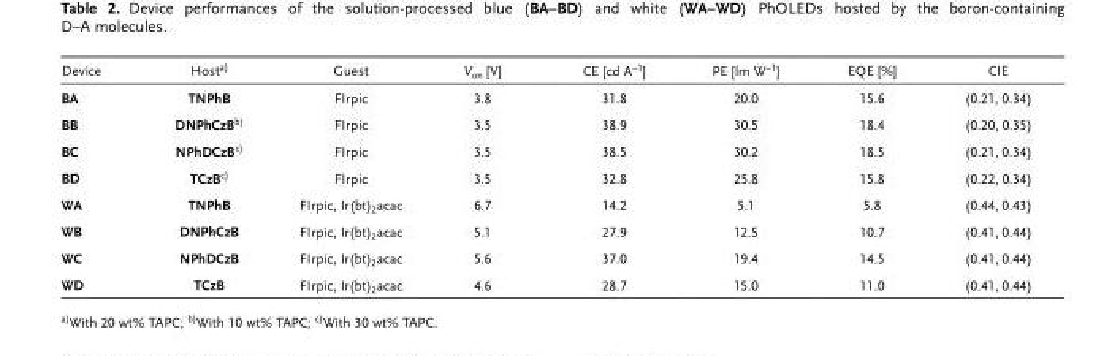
<table><thead><tr><td>Device</td><td>Hosta)</td><td>Guest</td><td>V<sub>on</sub> [V]</td><td>CE [cd A<sup>−1</sup>]</td><td>PE [lm W<sup>−1</sup>]</td><td>EQE [%]</td><td>CIE</td></tr></thead><tbody><tr><td>BA</td><td>TNPhB</td><td>FIrpic</td><td>3.8</td><td>31.8</td><td>20.0</td><td>15.6</td><td>(0.21, 0.34)</td></tr><tr><td>BB</td><td>DNPhCzBb)</td><td>FIrpic</td><td>3.5</td><td>38.9</td><td>30.5</td><td>18.4</td><td>(0.20, 0.35)</td></tr><tr><td>BC</td><td>NPhDCzBc)</td><td>FIrpic</td><td>3.5</td><td>38.5</td><td>30.2</td><td>18.5</td><td>(0.21, 0.34)</td></tr><tr><td>BD</td><td>TCzBc)</td><td>FIrpic</td><td>3.5</td><td>32.8</td><td>25.8</td><td>15.8</td><td>(0.22, 0.34)</td></tr><tr><td>WA</td><td>TNPhB</td><td>FIrpic, Ir(bt)<sub>2</sub>acac</td><td>6.7</td><td>14.2</td><td>5.1</td><td>5.8</td><td>(0.44, 0.43)</td></tr><tr><td>WB</td><td>DNPhCzB</td><td>FIrpic, Ir(bt)<sub>2</sub>acac</td><td>5.1</td><td>27.9</td><td>12.5</td><td>10.7</td><td>(0.41, 0.44)</td></tr><tr><td>WC</td><td>NPhDCzB</td><td>FIrpic, Ir(bt)<sub>2</sub>acac</td><td>5.6</td><td>37.0</td><td>19.4</td><td>14.5</td><td>(0.41, 0.44)</td></tr><tr><td>WD</td><td>TCzB</td><td>FIrpic, Ir(bt)<sub>2</sub>acac</td><td>4.6</td><td>28.7</td><td>15.0</td><td>11.0</td><td>(0.41, 0.44)</td></tr></tbody></table>